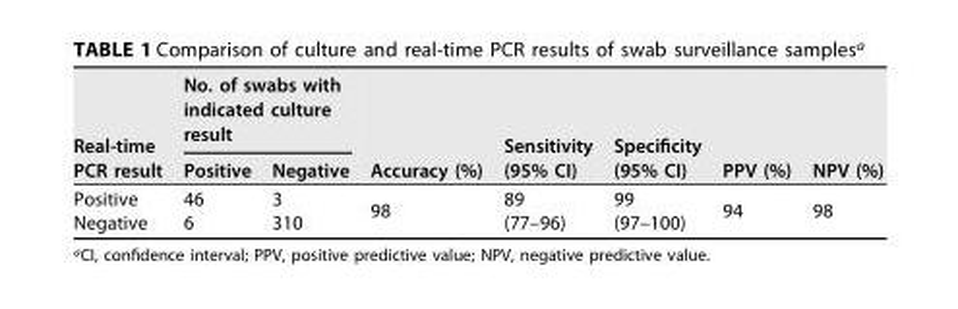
<table><thead><tr><td rowspan="2">Real-time PCR result</td><td colspan="2">No. of swabs with indicated culture result</td><td rowspan="2">Accuracy (%)</td><td rowspan="2">Sensitivity (95% CI)</td><td rowspan="2">Specificity (95% CI)</td><td rowspan="2">PPV (%)</td><td rowspan="2">NPV (%)</td></tr><tr><td>Positive</td><td>Negative</td></tr></thead><tbody><tr><td>Positive</td><td>46</td><td>3</td><td rowspan="2">98</td><td>89</td><td>99</td><td rowspan="2">94</td><td rowspan="2">98</td></tr><tr><td>Negative</td><td>6</td><td>310</td><td>(77–96)</td><td>(97–100)</td></tr></tbody></table>